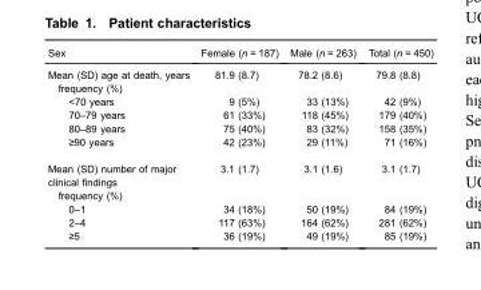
<table><thead><tr><td>Sex</td><td>Female (n = 187)</td><td>Male (n = 263)</td><td>Total (n = 450)</td></tr></thead><tbody><tr><td>Mean (SD) age at death, years</td><td>81.9 (8.7)</td><td>78.2 (8.6)</td><td>79.8 (8.8)</td></tr><tr><td colspan="4">frequency (%)</td></tr><tr><td>&lt;70 years</td><td>9 (5%)</td><td>33 (13%)</td><td>42 (9%)</td></tr><tr><td>70–79 years</td><td>61 (33%)</td><td>118 (45%)</td><td>179 (40%)</td></tr><tr><td>80–89 years</td><td>75 (40%)</td><td>83 (32%)</td><td>158 (35%)</td></tr><tr><td>≥90 years</td><td>42 (23%)</td><td>29 (11%)</td><td>71 (16%)</td></tr><tr><td>Mean (SD) number of major clinical findings</td><td>3.1 (1.7)</td><td>3.1 (1.6)</td><td>3.1 (1.7)</td></tr><tr><td colspan="4">frequency (%)</td></tr><tr><td>0–1</td><td>34 (18%)</td><td>50 (19%)</td><td>84 (19%)</td></tr><tr><td>2–4</td><td>117 (63%)</td><td>164 (62%)</td><td>281 (62%)</td></tr><tr><td>≥5</td><td>36 (19%)</td><td>49 (19%)</td><td>85 (19%)</td></tr></tbody></table>